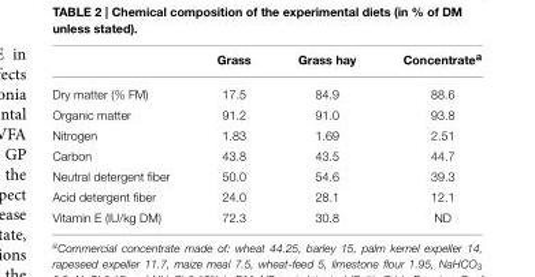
<table><thead><tr><td></td><td>Grass</td><td>Grass hay</td><td>Concentrate<sup>a</sup></td></tr></thead><tbody><tr><td>Dry matter (% FM)</td><td>17.5</td><td>84.9</td><td>88.6</td></tr><tr><td>Organic matter</td><td>91.2</td><td>91.0</td><td>93.8</td></tr><tr><td>Nitrogen</td><td>1.83</td><td>1.69</td><td>2.51</td></tr><tr><td>Carbon</td><td>43.8</td><td>43.5</td><td>44.7</td></tr><tr><td>Neutral detergent fiber</td><td>50.0</td><td>54.6</td><td>39.3</td></tr><tr><td>Acid detergent fiber</td><td>24.0</td><td>28.1</td><td>12.1</td></tr><tr><td>Vitamin E (IU/kg DM)</td><td>72.3</td><td>30.8</td><td>ND</td></tr></tbody></table>